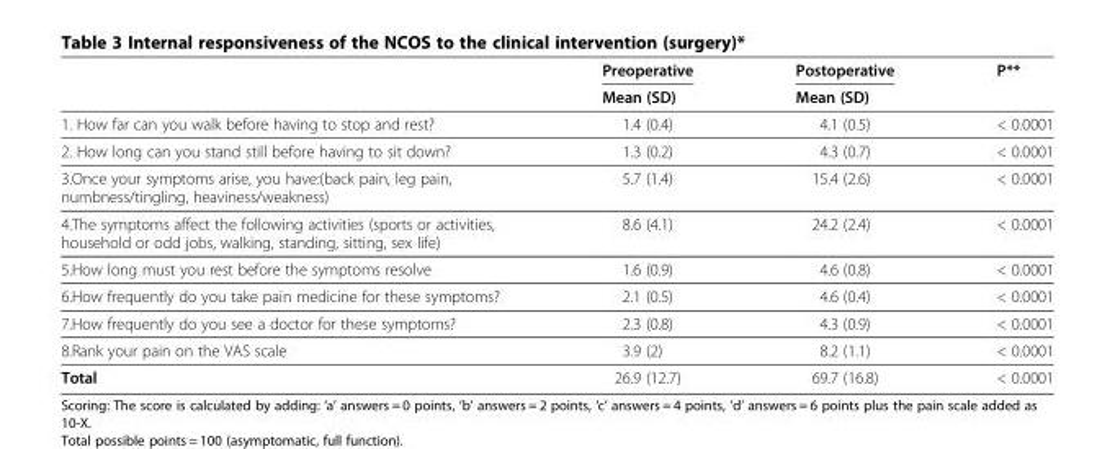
<table><thead><tr><td rowspan="2"></td><td rowspan="2">Preoperative Mean (SD)</td><td rowspan="2">Postoperative Mean (SD)</td><td rowspan="2">P**</td></tr><tr></tr></thead><tbody><tr><td>1. How far can you walk before having to stop and rest?</td><td>1.4 (0.4)</td><td>4.1 (0.5)</td><td>&lt; 0.0001</td></tr><tr><td>2. How long can you stand still before having to sit down?</td><td>1.3 (0.2)</td><td>4.3 (0.7)</td><td>&lt; 0.0001</td></tr><tr><td>3.Once your symptoms arise, you have:(back pain, leg pain, numbness/tingling, heaviness/weakness)</td><td>5.7 (1.4)</td><td>15.4 (2.6)</td><td>&lt; 0.0001</td></tr><tr><td>4.The symptoms affect the following activities (sports or activities, household or odd jobs, walking, standing, sitting, sex life)</td><td>8.6 (4.1)</td><td>24.2 (2.4)</td><td>&lt; 0.0001</td></tr><tr><td>5.How long must you rest before the symptoms resolve</td><td>1.6 (0.9)</td><td>4.6 (0.8)</td><td>&lt; 0.0001</td></tr><tr><td>6.How frequently do you take pain medicine for these symptoms?</td><td>2.1 (0.5)</td><td>4.6 (0.4)</td><td>&lt; 0.0001</td></tr><tr><td>7.How frequently do you see a doctor for these symptoms?</td><td>2.3 (0.8)</td><td>4.3 (0.9)</td><td>&lt; 0.0001</td></tr><tr><td>8.Rank your pain on the VAS scale</td><td>3.9 (2)</td><td>8.2 (1.1)</td><td>&lt; 0.0001</td></tr><tr><td>Total</td><td>26.9 (12.7)</td><td>69.7 (16.8)</td><td>&lt; 0.0001</td></tr></tbody></table>